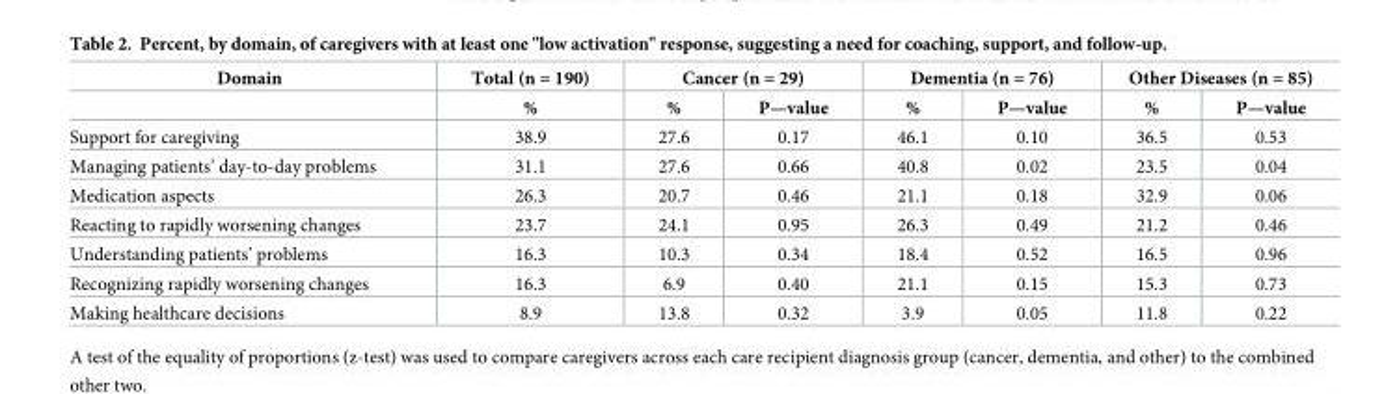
<table><thead><tr><td rowspan="2">Domain</td><td rowspan="2">Total (n = 190) %</td><td colspan="2">Cancer (n = 29)</td><td colspan="2">Dementia (n = 76)</td><td colspan="2">Other Diseases (n = 85)</td></tr><tr><td>%</td><td>P—value</td><td>%</td><td>P—value</td><td>%</td><td>P—value</td></tr></thead><tbody><tr><td>Support for caregiving</td><td>38.9</td><td>27.6</td><td>0.17</td><td>46.1</td><td>0.10</td><td>36.5</td><td>0.53</td></tr><tr><td>Managing patients’ day-to-day problems</td><td>31.1</td><td>27.6</td><td>0.66</td><td>40.8</td><td>0.02</td><td>23.5</td><td>0.04</td></tr><tr><td>Medication aspects</td><td>26.3</td><td>20.7</td><td>0.46</td><td>21.1</td><td>0.18</td><td>32.9</td><td>0.06</td></tr><tr><td>Reacting to rapidly worsening changes</td><td>23.7</td><td>24.1</td><td>0.95</td><td>26.3</td><td>0.49</td><td>21.2</td><td>0.46</td></tr><tr><td>Understanding patients’ problems</td><td>16.3</td><td>10.3</td><td>0.34</td><td>18.4</td><td>0.52</td><td>16.5</td><td>0.96</td></tr><tr><td>Recognizing rapidly worsening changes</td><td>16.3</td><td>6.9</td><td>0.40</td><td>21.1</td><td>0.15</td><td>15.3</td><td>0.73</td></tr><tr><td>Making healthcare decisions</td><td>8.9</td><td>13.8</td><td>0.32</td><td>3.9</td><td>0.05</td><td>11.8</td><td>0.22</td></tr></tbody></table>